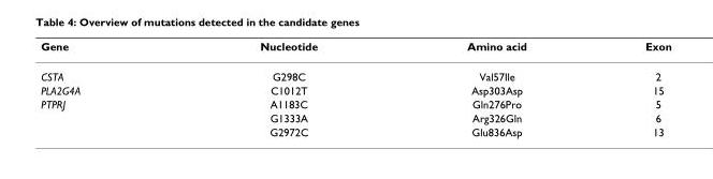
<table><thead><tr><td>Gene</td><td>Nucleotide</td><td>Amino acid</td><td>Exon</td></tr></thead><tbody><tr><td>CSTA</td><td>G298C</td><td>Val57Ile</td><td>2</td></tr><tr><td>PLA2G4A</td><td>C1012T</td><td>Asp303Asp</td><td>15</td></tr><tr><td rowspan="3">PTPRJ</td><td>A1183C</td><td>Gln276Pro</td><td>5</td></tr><tr><td>G1333A</td><td>Arg326Gln</td><td>6</td></tr><tr><td>G2972C</td><td>Glu836Asp</td><td>13</td></tr></tbody></table>